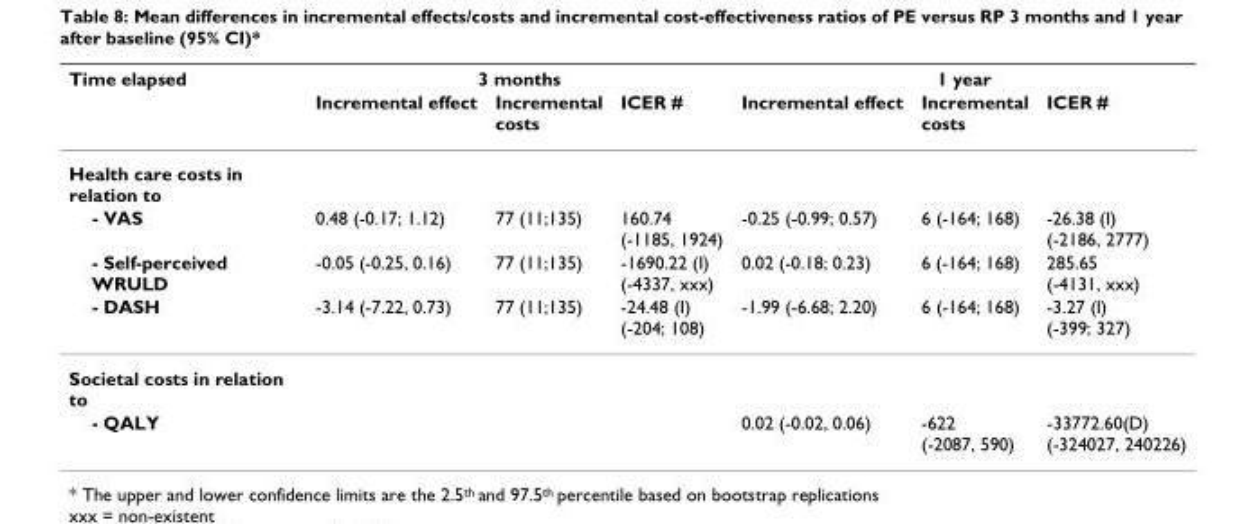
<table><thead><tr><td rowspan="2">Time elapsed</td><td colspan="3">3 months</td><td colspan="3">1 year</td></tr><tr><td>Incremental effect</td><td>Incremental costs</td><td>ICER #</td><td>Incremental effect</td><td>Incremental costs</td><td>ICER #</td></tr></thead><tbody><tr><td colspan="7">Health care costs in relation to</td></tr><tr><td>- VAS</td><td>0.48 (-0.17; 1.12)</td><td>77 (11;135)</td><td>160.74 (-1185, 1924)</td><td>-0.25 (-0.99; 0.57)</td><td>6 (-164; 168)</td><td>-26.38 (I) (-2186, 2777)</td></tr><tr><td>- Self-perceived WRULD</td><td>-0.05 (-0.25, 0.16)</td><td>77 (11;135)</td><td>-1690.22 (I) (-4337, xxx)</td><td>0.02 (-0.18; 0.23)</td><td>6 (-164; 168)</td><td>285.65 (-4131, xxx)</td></tr><tr><td>- DASH</td><td>-3.14 (-7.22, 0.73)</td><td>77 (11;135)</td><td>-24.48 (I) (-204; 108)</td><td>-1.99 (-6.68; 2.20)</td><td>6 (-164; 168)</td><td>-3.27 (I) (-399; 327)</td></tr><tr><td colspan="7">Societal costs in relation to</td></tr><tr><td>- QALY</td><td></td><td></td><td></td><td>0.02 (-0.02, 0.06)</td><td>-622 (-2087, 590)</td><td>-33772.60(D) (-324027, 240226)</td></tr></tbody></table>